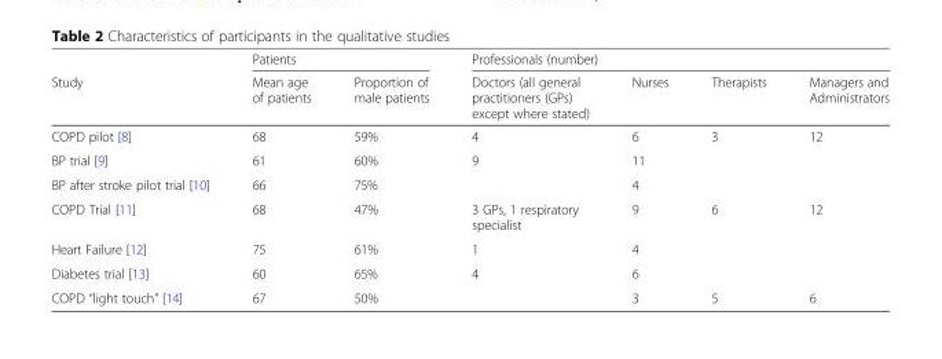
<table><thead><tr><td rowspan="2">Study</td><td colspan="2">Patients</td><td colspan="4">Professionals (number)</td></tr><tr><td>Mean age of patients</td><td>Proportion of male patients</td><td>Doctors (all general practitioners (GPs) except where stated)</td><td>Nurses</td><td>Therapists</td><td>Managers and Administrators</td></tr></thead><tbody><tr><td>COPD pilot [8]</td><td>68</td><td>59%</td><td>4</td><td>6</td><td>3</td><td>12</td></tr><tr><td>BP trial [9]</td><td>61</td><td>60%</td><td>9</td><td>11</td><td></td><td></td></tr><tr><td>BP after stroke pilot trial [10]</td><td>66</td><td>75%</td><td></td><td>4</td><td></td><td></td></tr><tr><td>COPD Trial [11]</td><td>68</td><td>47%</td><td>3 GPs, 1 respiratory specialist</td><td>9</td><td>6</td><td>12</td></tr><tr><td>Heart Failure [12]</td><td>75</td><td>61%</td><td>1</td><td>4</td><td></td><td></td></tr><tr><td>Diabetes trial [13]</td><td>60</td><td>65%</td><td>4</td><td>6</td><td></td><td></td></tr><tr><td>COPD “light touch” [14]</td><td>67</td><td>50%</td><td></td><td>3</td><td>5</td><td>6</td></tr></tbody></table>